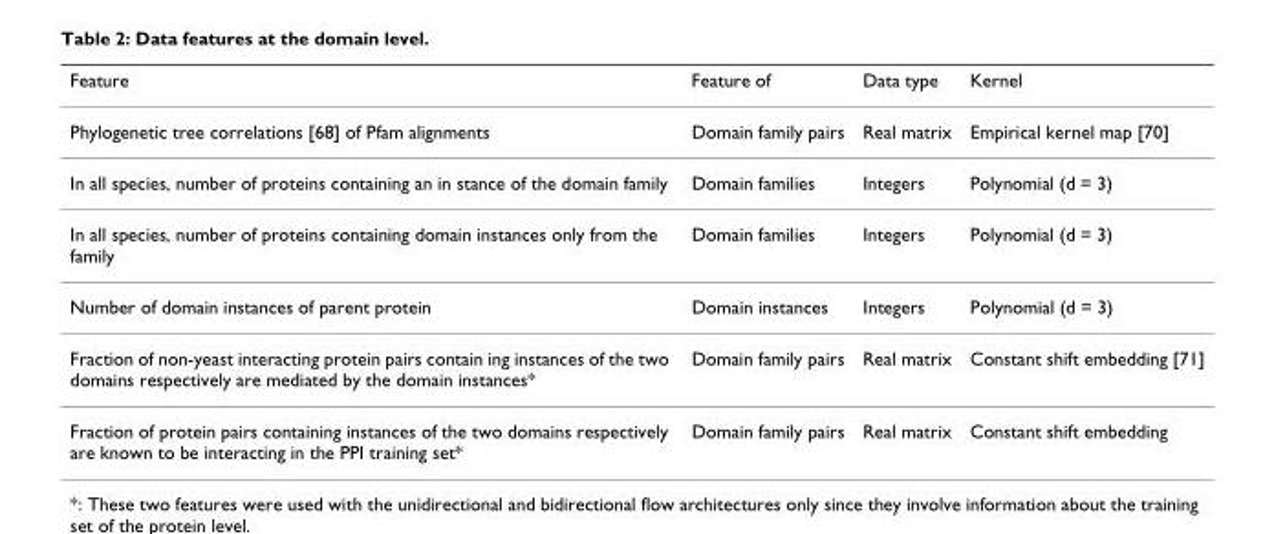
<table><thead><tr><td>Feature</td><td>Feature of</td><td>Data type</td><td>Kernel</td></tr></thead><tbody><tr><td>Phylogenetic tree correlations [68] of Pfam alignments</td><td>Domain family pairs</td><td>Real matrix</td><td>Empirical kernel map [70]</td></tr><tr><td>In all species, number of proteins containing an in stance of the domain family</td><td>Domain families</td><td>Integers</td><td>Polynomial (d = 3)</td></tr><tr><td>In all species, number of proteins containing domain instances only from the family</td><td>Domain families</td><td>Integers</td><td>Polynomial (d = 3)</td></tr><tr><td>Number of domain instances of parent protein</td><td>Domain instances</td><td>Integers</td><td>Polynomial (d = 3)</td></tr><tr><td>Fraction of non-yeast interacting protein pairs contain ing instances of the two domains respectively are mediated by the domain instances*</td><td>Domain family pairs</td><td>Real matrix</td><td>Constant shift embedding [71]</td></tr><tr><td>Fraction of protein pairs containing instances of the two domains respectively are known to be interacting in the PPI training set*</td><td>Domain family pairs</td><td>Real matrix</td><td>Constant shift embedding</td></tr></tbody></table>